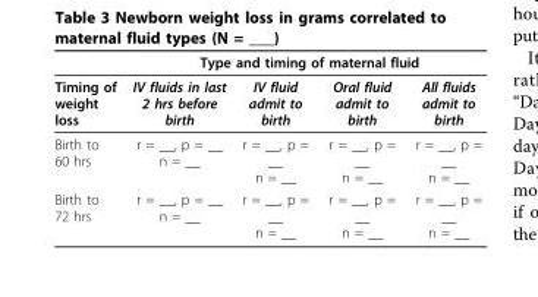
<table><thead><tr><td rowspan="2">Timing of weight loss</td><td colspan="4">Type and timing of maternal fluid</td></tr><tr><td>IV fluids in last 2 hrs before birth</td><td>IV fluid admit to birth</td><td>Oral fluid admit to birth</td><td>All fluids admit to birth</td></tr></thead><tbody><tr><td>Birth to 60 hrs</td><td>r = __, p = __ n = __</td><td>r = __, p = __ n = __</td><td>r = __, p = __ n = __</td><td>r = __, p = __ n = __</td></tr><tr><td>Birth to 72 hrs</td><td>r = __, p = __ n = __</td><td>r = __, p = __ n = __</td><td>r = __, p = __ n = __</td><td>r = __, p = __ n = __</td></tr></tbody></table>